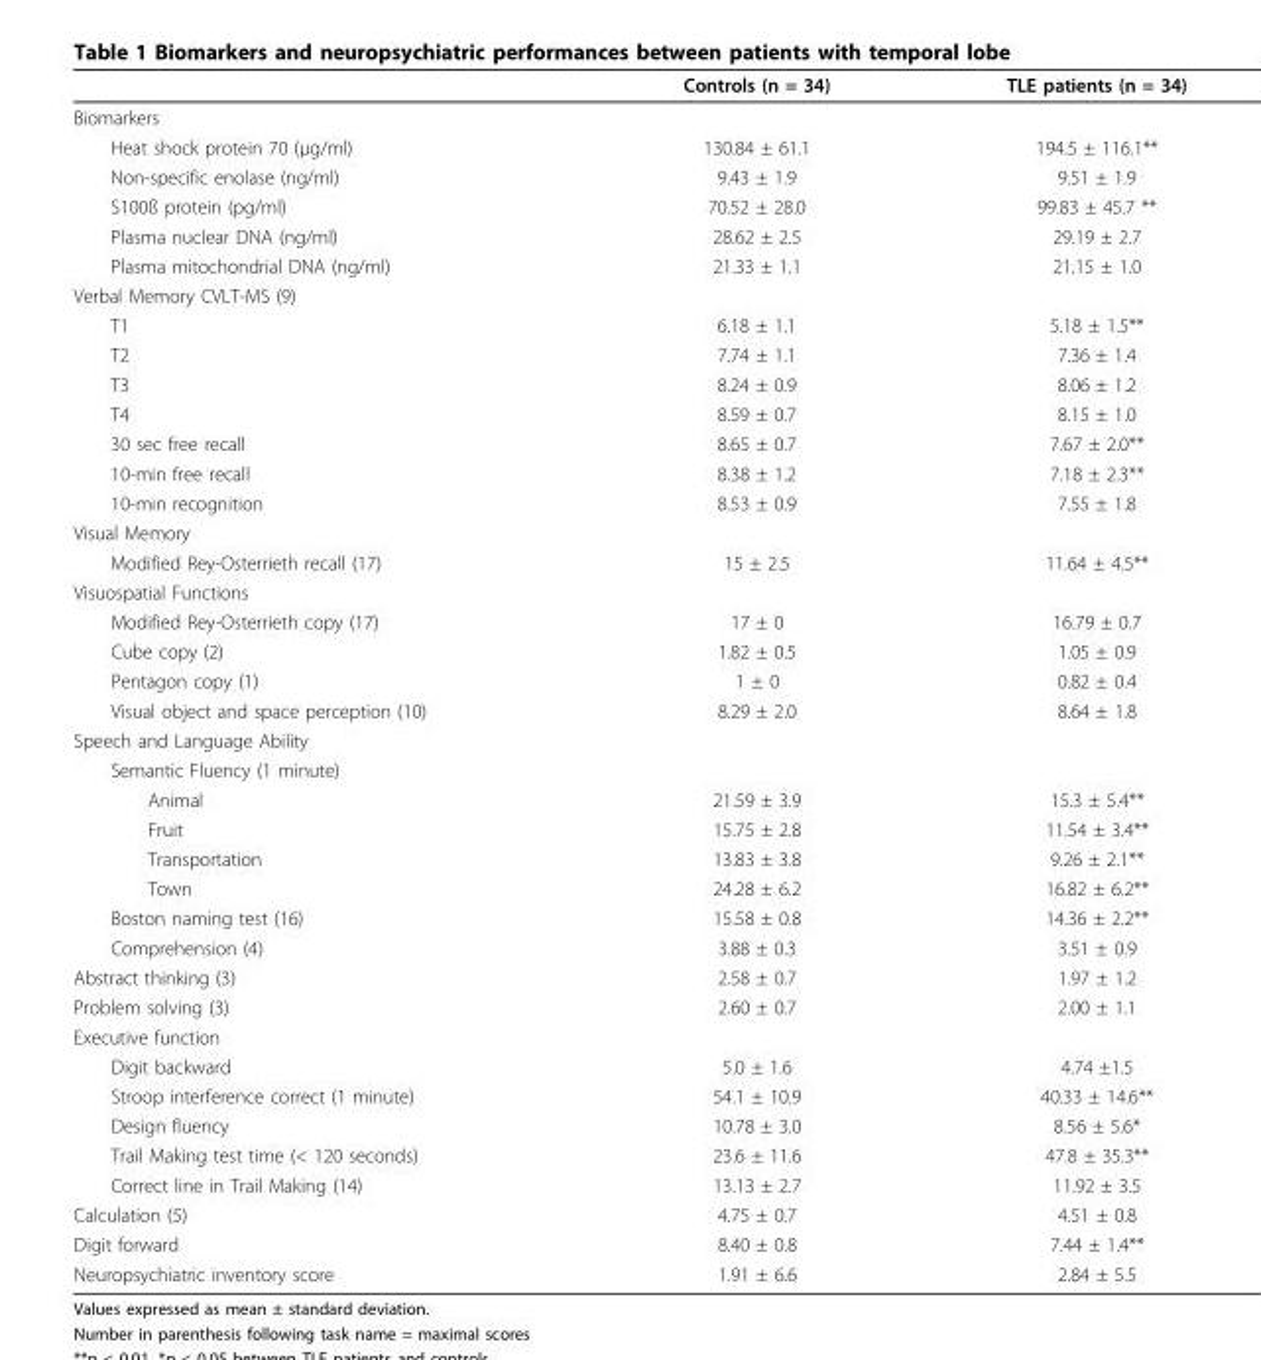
<table><thead><tr><td></td><td>Controls (n = 34)</td><td>TLE patients (n = 34)</td></tr></thead><tbody><tr><td colspan="3">Biomarkers</td></tr><tr><td>Heat shock protein 70 (μg/ml)</td><td>130.84 ± 61.1</td><td>194.5 ± 116.1**</td></tr><tr><td>Non-specific enolase (ng/ml)</td><td>9.43 ± 1.9</td><td>9.51 ± 1.9</td></tr><tr><td>S100ß protein (pg/ml)</td><td>70.52 ± 28.0</td><td>99.83 ± 45.7 **</td></tr><tr><td>Plasma nuclear DNA (ng/ml)</td><td>28.62 ± 2.5</td><td>29.19 ± 2.7</td></tr><tr><td>Plasma mitochondrial DNA (ng/ml)</td><td>21.33 ± 1.1</td><td>21.15 ± 1.0</td></tr><tr><td colspan="3">Verbal Memory CVLT-MS (9)</td></tr><tr><td>T1</td><td>6.18 ± 1.1</td><td>5.18 ± 1.5**</td></tr><tr><td>T2</td><td>7.74 ± 1.1</td><td>7.36 ± 1.4</td></tr><tr><td>T3</td><td>8.24 ± 0.9</td><td>8.06 ± 1.2</td></tr><tr><td>T4</td><td>8.59 ± 0.7</td><td>8.15 ± 1.0</td></tr><tr><td>30 sec free recall</td><td>8.65 ± 0.7</td><td>7.67 ± 2.0**</td></tr><tr><td>10-min free recall</td><td>8.38 ± 1.2</td><td>7.18 ± 2.3**</td></tr><tr><td>10-min recognition</td><td>8.53 ± 0.9</td><td>7.55 ± 1.8</td></tr><tr><td colspan="3">Visual Memory</td></tr><tr><td>Modified Rey-Osterrieth recall (17)</td><td>15 ± 2.5</td><td>11.64 ± 4.5**</td></tr><tr><td colspan="3">Visuospatial Functions</td></tr><tr><td>Modified Rey-Osterrieth copy (17)</td><td>17 ± 0</td><td>16.79 ± 0.7</td></tr><tr><td>Cube copy (2)</td><td>1.82 ± 0.5</td><td>1.05 ± 0.9</td></tr><tr><td>Pentagon copy (1)</td><td>1 ± 0</td><td>0.82 ± 0.4</td></tr><tr><td>Visual object and space perception (10)</td><td>8.29 ± 2.0</td><td>8.64 ± 1.8</td></tr><tr><td colspan="3">Speech and Language Ability</td></tr><tr><td colspan="3">Semantic Fluency (1 minute)</td></tr><tr><td>Animal</td><td>21.59 ± 3.9</td><td>15.3 ± 5.4**</td></tr><tr><td>Fruit</td><td>15.75 ± 2.8</td><td>11.54 ± 3.4**</td></tr><tr><td>Transportation</td><td>13.83 ± 3.8</td><td>9.26 ± 2.1**</td></tr><tr><td>Town</td><td>24.28 ± 6.2</td><td>16.82 ± 6.2**</td></tr><tr><td>Boston naming test (16)</td><td>15.58 ± 0.8</td><td>14.36 ± 2.2**</td></tr><tr><td>Comprehension (4)</td><td>3.88 ± 0.3</td><td>3.51 ± 0.9</td></tr><tr><td>Abstract thinking (3)</td><td>2.58 ± 0.7</td><td>1.97 ± 1.2</td></tr><tr><td>Problem solving (3)</td><td>2.60 ± 0.7</td><td>2.00 ± 1.1</td></tr><tr><td colspan="3">Executive function</td></tr><tr><td>Digit backward</td><td>5.0 ± 1.6</td><td>4.74 ±1.5</td></tr><tr><td>Stroop interference correct (1 minute)</td><td>54.1 ± 10.9</td><td>40.33 ± 14.6**</td></tr><tr><td>Design fluency</td><td>10.78 ± 3.0</td><td>8.56 ± 5.6*</td></tr><tr><td>Trail Making test time (&lt; 120 seconds)</td><td>23.6 ± 11.6</td><td>47.8 ± 35.3**</td></tr><tr><td>Correct line in Trail Making (14)</td><td>13.13 ± 2.7</td><td>11.92 ± 3.5</td></tr><tr><td>Calculation (5)</td><td>4.75 ± 0.7</td><td>4.51 ± 0.8</td></tr><tr><td>Digit forward</td><td>8.40 ± 0.8</td><td>7.44 ± 1.4**</td></tr><tr><td>Neuropsychiatric inventory score</td><td>1.91 ± 6.6</td><td>2.84 ± 5.5</td></tr></tbody></table>